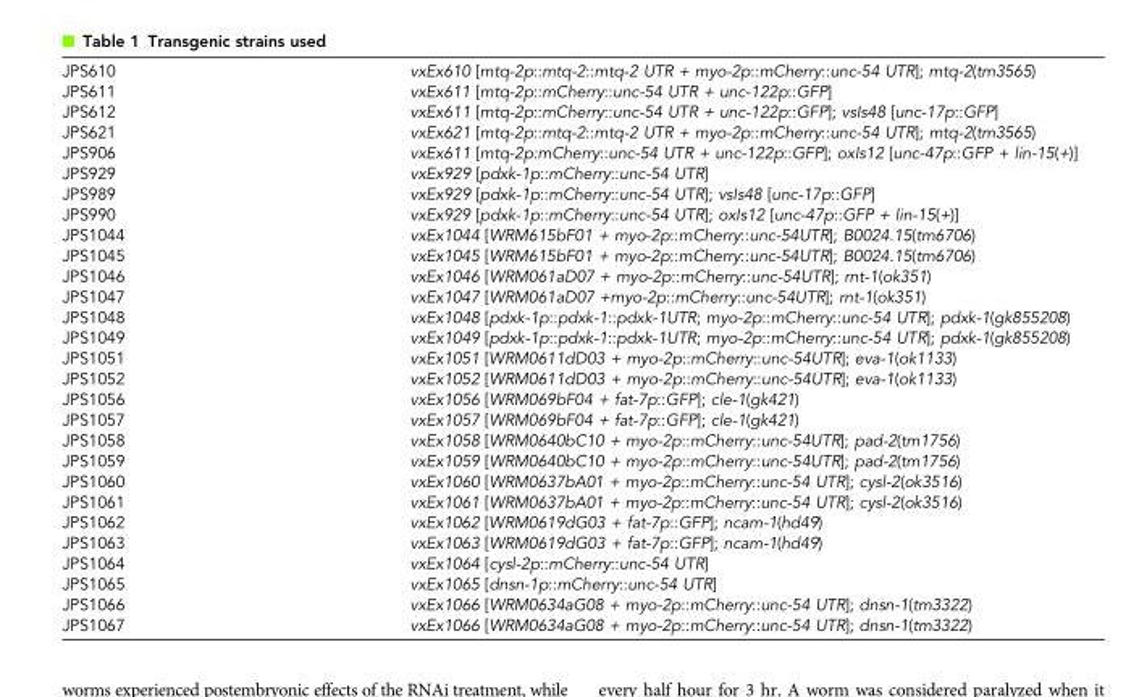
<table><tbody><tr><td>JPS610</td><td>vxEx610 [mtq-2p::mtq-2::mtq-2 UTR + myo-2p::mCherry::unc-54 UTR]; mtq-2(tm3565)</td></tr><tr><td>JPS611</td><td>vxEx611 [mtq-2p::mCherry::unc-54 UTR + unc-122p::GFP]</td></tr><tr><td>JPS612</td><td>vxEx611 [mtq-2p::mCherry::unc-54 UTR + unc-122p::GFP]; vsIs48 [unc-17p::GFP]</td></tr><tr><td>JPS621</td><td>vxEx621 [mtq-2p::mtq-2::mtq-2 UTR + myo-2p::mCherry::unc-54 UTR]; mtq-2(tm3565)</td></tr><tr><td>JPS906</td><td>vxEx611 [mtq-2p:mCherry::unc-54 UTR + unc-122p::GFP]; oxIs12 [unc-47p::GFP + lin-15(+)]</td></tr><tr><td>JPS929</td><td>vxEx929 [pdxk-1p::mCherry::unc-54 UTR]</td></tr><tr><td>JPS989</td><td>vxEx929 [pdxk-1p::mCherry::unc-54 UTR]; vsIs48 [unc-17p::GFP]</td></tr><tr><td>JPS990</td><td>vxEx929 [pdxk-1p::mCherry::unc-54 UTR]; oxIs12 [unc-47p::GFP + lin-15(+)]</td></tr><tr><td>JPS1044</td><td>vxEx1044 [WRM615bF01 + myo-2p::mCherry::unc-54UTR]; B0024.15(tm6706)</td></tr><tr><td>JPS1045</td><td>vxEx1045 [WRM615bF01 + myo-2p::mCherry::unc-54UTR]; B0024.15(tm6706)</td></tr><tr><td>JPS1046</td><td>vxEx1046 [WRM061aD07 + myo-2p::mCherry::unc-54UTR]; rnt-1(ok351)</td></tr><tr><td>JPS1047</td><td>vxEx1047 [WRM061aD07 +myo-2p::mCherry::unc-54UTR]; rnt-1(ok351)</td></tr><tr><td>JPS1048</td><td>vxEx1048 [pdxk-1p::pdxk-1::pdxk-1UTR; myo-2p::mCherry::unc-54 UTR]; pdxk-1(gk855208)</td></tr><tr><td>JPS1049</td><td>vxEx1049 [pdxk-1p::pdxk-1::pdxk-1UTR; myo-2p::mCherry::unc-54 UTR]; pdxk-1(gk855208)</td></tr><tr><td>JPS1051</td><td>vxEx1051 [WRM0611dD03 + myo-2p::mCherry::unc-54UTR]; eva-1(ok1133)</td></tr><tr><td>JPS1052</td><td>vxEx1052 [WRM0611dD03 + myo-2p::mCherry::unc-54UTR]; eva-1(ok1133)</td></tr><tr><td>JPS1056</td><td>vxEx1056 [WRM069bF04 + fat-7p::GFP]; cle-1(gk421)</td></tr><tr><td>JPS1057</td><td>vxEx1057 [WRM069bF04 + fat-7p::GFP]; cle-1(gk421)</td></tr><tr><td>JPS1058</td><td>vxEx1058 [WRM0640bC10 + myo-2p::mCherry::unc-54UTR]; pad-2(tm1756)</td></tr><tr><td>JPS1059</td><td>vxEx1059 [WRM0640bC10 + myo-2p::mCherry::unc-54UTR]; pad-2(tm1756)</td></tr><tr><td>JPS1060</td><td>vxEx1060 [WRM0637bA01 + myo-2p::mCherry::unc-54 UTR]; cysl-2(ok3516)</td></tr><tr><td>JPS1061</td><td>vxEx1061 [WRM0637bA01 + myo-2p::mCherry::unc-54 UTR]; cysl-2(ok3516)</td></tr><tr><td>JPS1062</td><td>vxEx1062 [WRM0619dG03 + fat-7p::GFP]; ncam-1(hd49)</td></tr><tr><td>JPS1063</td><td>vxEx1063 [WRM0619dG03 + fat-7p::GFP]; ncam-1(hd49)</td></tr><tr><td>JPS1064</td><td>vxEx1064 [cysl-2p::mCherry::unc-54 UTR]</td></tr><tr><td>JPS1065</td><td>vxEx1065 [dnsn-1p::mCherry::unc-54 UTR]</td></tr><tr><td>JPS1066</td><td>vxEx1066 [WRM0634aG08 + myo-2p::mCherry::unc-54 UTR]; dnsn-1(tm3322)</td></tr><tr><td>JPS1067</td><td>vxEx1066 [WRM0634aG08 + myo-2p::mCherry::unc-54 UTR]; dnsn-1(tm3322)</td></tr></tbody></table>